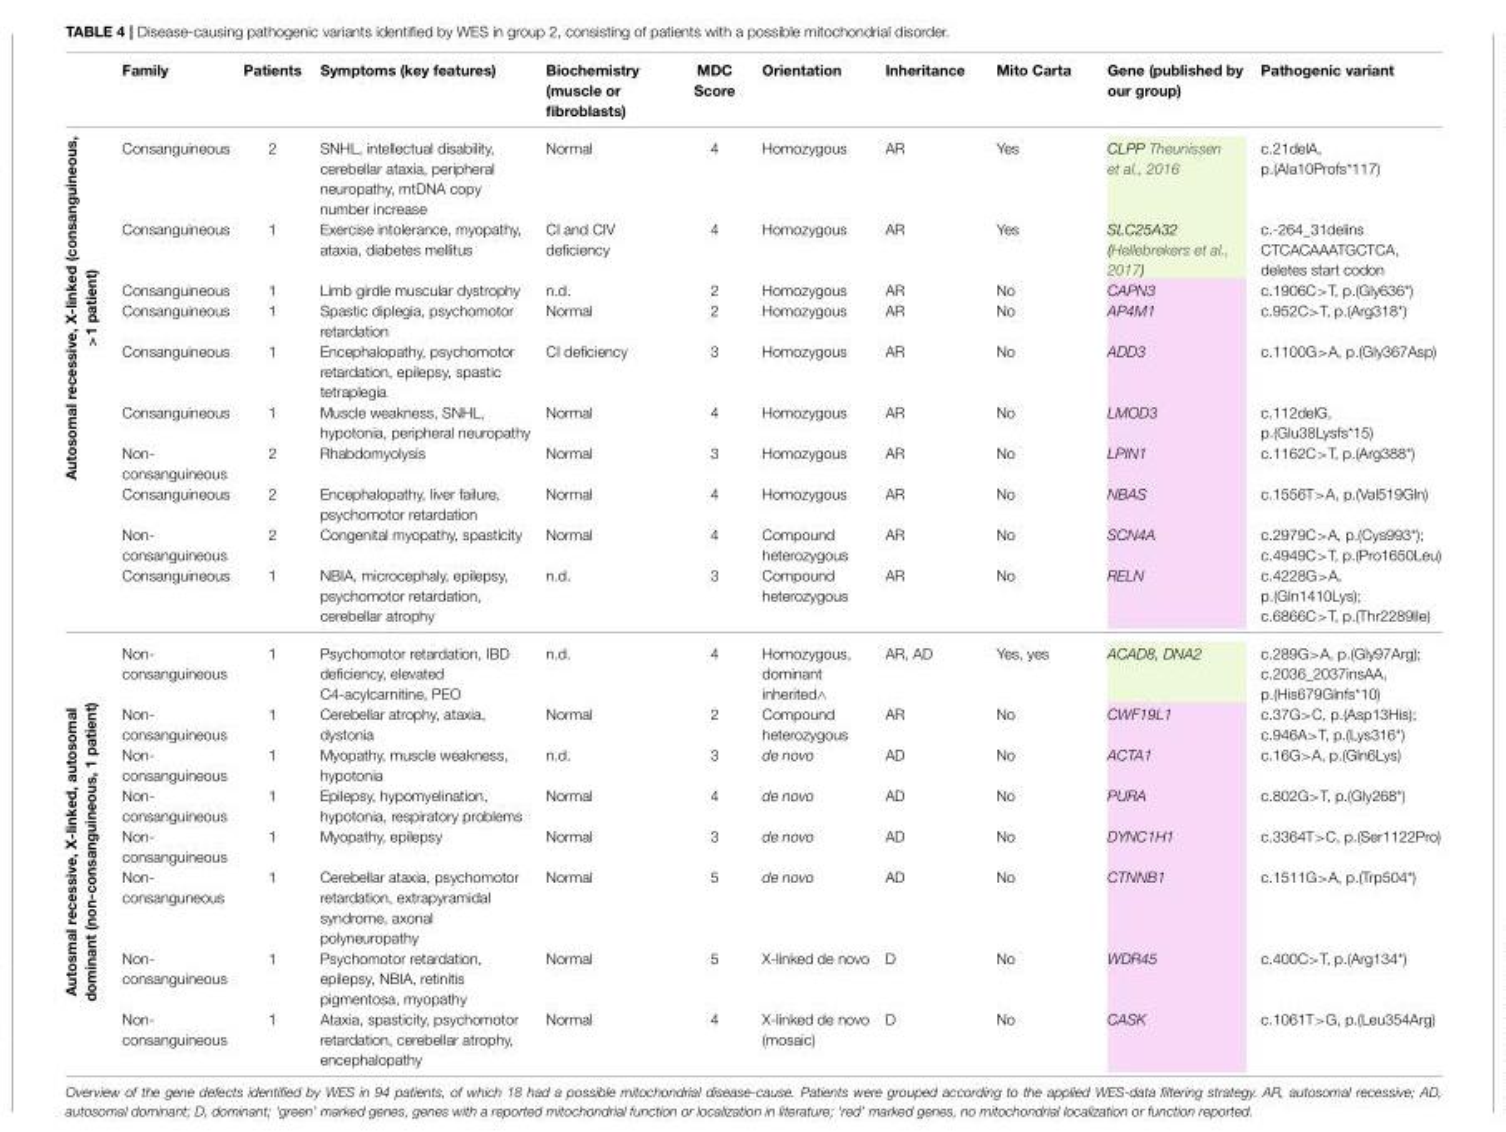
<table><thead><tr><td></td><td>Family</td><td>Patients</td><td>Symptoms (key features)</td><td>Biochemistry (muscle or fibroblasts)</td><td>MDC Score</td><td>Orientation</td><td>Inheritance</td><td>Mito Carta</td><td>Gene (published by our group)</td><td>Pathogenic variant</td></tr></thead><tbody><tr><td rowspan="10">Autosomal recessive, X-linked (consanguineous, &gt;1 patient)</td><td>Consanguineous</td><td>2</td><td>SNHL, intellectual disability, cerebellar ataxia, peripheral neuropathy, mtDNA copy number increase</td><td>Normal</td><td>4</td><td>Homozygous</td><td>AR</td><td>Yes</td><td>CLPP Theunissen et al., 2016</td><td>c.21delA, p.(Ala10Profs*117)</td></tr><tr><td>Consanguineous</td><td>1</td><td>Exercise intolerance, myopathy, ataxia, diabetes mellitus</td><td>CI and CIV deficiency</td><td>4</td><td>Homozygous</td><td>AR</td><td>Yes</td><td>SLC25A32 (Hellebrekers et al., 2017)</td><td>c.-264_31delins CTCACAAATGCTCA, deletes start codon</td></tr><tr><td>Consanguineous</td><td>1</td><td>Limb girdle muscular dystrophy</td><td>n.d.</td><td>2</td><td>Homozygous</td><td>AR</td><td>No</td><td>CAPN3</td><td>c.1906C&gt;T, p.(Gly636*)</td></tr><tr><td>Consanguineous</td><td>1</td><td>Spastic diplegia, psychomotor retardation</td><td>Normal</td><td>2</td><td>Homozygous</td><td>AR</td><td>No</td><td>AP4M1</td><td>c.952C&gt;T, p.(Arg318*)</td></tr><tr><td>Consanguineous</td><td>1</td><td>Encephalopathy, psychomotor retardation, epilepsy, spastic tetraplegia</td><td>CI deficiency</td><td>3</td><td>Homozygous</td><td>AR</td><td>No</td><td>ADD3</td><td>c.1100G&gt;A, p.(Gly367Asp)</td></tr><tr><td>Consanguineous</td><td>1</td><td>Muscle weakness, SNHL, hypotonia, peripheral neuropathy</td><td>Normal</td><td>4</td><td>Homozygous</td><td>AR</td><td>No</td><td>LMOD3</td><td>c.112delG, p.(Glu38Lysfs*15)</td></tr><tr><td>Non- consanguineous</td><td>2</td><td>Rhabdomyolysis</td><td>Normal</td><td>3</td><td>Homozygous</td><td>AR</td><td>No</td><td>LPIN1</td><td>c.1162C&gt;T, p.(Arg388*)</td></tr><tr><td>Consanguineous</td><td>2</td><td>Encephalopathy, liver failure, psychomotor retardation</td><td>Normal</td><td>4</td><td>Homozygous</td><td>AR</td><td>No</td><td>NBAS</td><td>c.1556T&gt;A, p.(Val519Gln)</td></tr><tr><td>Non- consanguineous</td><td>2</td><td>Congenital myopathy, spasticity</td><td>Normal</td><td>4</td><td>Compound heterozygous</td><td>AR</td><td>No</td><td>SCN4A</td><td>c.2979C&gt;A, p.(Cys993*); c.4949C&gt;T, p.(Pro1650Leu)</td></tr><tr><td>Consanguineous</td><td>1</td><td>NBIA, microcephaly, epilepsy, psychomotor retardation, cerebellar atrophy</td><td>n.d.</td><td>3</td><td>Compound heterozygous</td><td>AR</td><td>No</td><td>RELN</td><td>c.4228G&gt;A, p.(Gln1410Lys); c.6866C&gt;T, p.(Thr2289Ile)</td></tr><tr><td rowspan="8">Autosmal recessive, X-linked, autosomal dominant (non-consanguineous, 1 patient)</td><td>Non- consanguineous</td><td>1</td><td>Psychomotor retardation, IBD deficiency, elevated C4-acylcarnitine, PEO</td><td>n.d.</td><td>4</td><td>Homozygous, dominant inherited∧</td><td>AR, AD</td><td>Yes, yes</td><td>ACAD8, DNA2</td><td>c.289G&gt;A, p.(Gly97Arg); c.2036_2037insAA, p.(His679Glnfs*10)</td></tr><tr><td>Non- consanguineous</td><td>1</td><td>Cerebellar atrophy, ataxia, dystonia</td><td>Normal</td><td>2</td><td>Compound heterozygous</td><td>AR</td><td>No</td><td>CWF19L1</td><td>c.37G&gt;C, p.(Asp13His); c.946A&gt;T, p.(Lys316*)</td></tr><tr><td>Non- consanguineous</td><td>1</td><td>Myopathy, muscle weakness, hypotonia</td><td>n.d.</td><td>3</td><td>de novo</td><td>AD</td><td>No</td><td>ACTA1</td><td>c.16G&gt;A, p.(Gln6Lys)</td></tr><tr><td>Non- consanguineous</td><td>1</td><td>Epilepsy, hypomyelination, hypotonia, respiratory problems</td><td>Normal</td><td>4</td><td>de novo</td><td>AD</td><td>No</td><td>PURA</td><td>c.802G&gt;T, p.(Gly268*)</td></tr><tr><td>Non- consanguineous</td><td>1</td><td>Myopathy, epilepsy</td><td>Normal</td><td>3</td><td>de novo</td><td>AD</td><td>No</td><td>DYNC1H1</td><td>c.3364T&gt;C, p.(Ser1122Pro)</td></tr><tr><td>Non- consanguneous</td><td>1</td><td>Cerebellar ataxia, psychomotor retardation, extrapyramidal syndrome, axonal polyneuropathy</td><td>Normal</td><td>5</td><td>de novo</td><td>AD</td><td>No</td><td>CTNNB1</td><td>c.1511G&gt;A, p.(Trp504*)</td></tr><tr><td>Non- consanguineous</td><td>1</td><td>Psychomotor retardation, epilepsy, NBIA, retinitis pigmentosa, myopathy</td><td>Normal</td><td>5</td><td>X-linked de novo</td><td>D</td><td>No</td><td>WDR45</td><td>c.400C&gt;T, p.(Arg134*)</td></tr><tr><td>Non- consanguineous</td><td>1</td><td>Ataxia, spasticity, psychomotor retardation, cerebellar atrophy, encephalopathy</td><td>Normal</td><td>4</td><td>X-linked de novo (mosaic)</td><td>D</td><td>No</td><td>CASK</td><td>c.1061T&gt;G, p.(Leu354Arg)</td></tr></tbody></table>